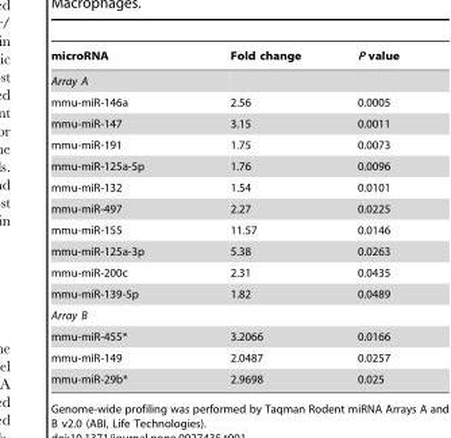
<table><thead><tr><td>microRNA</td><td>Fold change</td><td>P value</td></tr></thead><tbody><tr><td colspan="3">Array A</td></tr><tr><td>mmu-miR-146a</td><td>2.56</td><td>0.0005</td></tr><tr><td>mmu-miR-147</td><td>3.15</td><td>0.0011</td></tr><tr><td>mmu-miR-191</td><td>1.75</td><td>0.0073</td></tr><tr><td>mmu-miR-125a-5p</td><td>1.76</td><td>0.0096</td></tr><tr><td>mmu-miR-132</td><td>1.54</td><td>0.0101</td></tr><tr><td>mmu-miR-497</td><td>2.27</td><td>0.0225</td></tr><tr><td>mmu-miR-155</td><td>11.57</td><td>0.0146</td></tr><tr><td>mmu-miR-125a-3p</td><td>5.38</td><td>0.0263</td></tr><tr><td>mmu-miR-200c</td><td>2.31</td><td>0.0435</td></tr><tr><td>mmu-miR-139-5p</td><td>1.82</td><td>0.0489</td></tr><tr><td colspan="3">Array B</td></tr><tr><td>mmu-miR-455*</td><td>3.2066</td><td>0.0166</td></tr><tr><td>mmu-miR-149</td><td>2.0487</td><td>0.0257</td></tr><tr><td>mmu-miR-29b*</td><td>2.9698</td><td>0.025</td></tr></tbody></table>